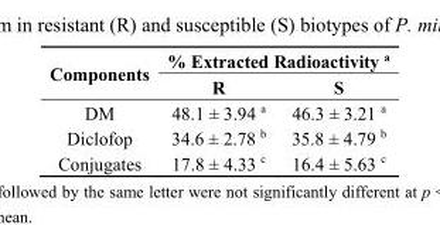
<table><thead><tr><td rowspan="2">Components</td><td colspan="2">% Extracted Radioactivity <sup>a</sup></td></tr><tr><td>R</td><td>S</td></tr></thead><tbody><tr><td>DM</td><td>48.1 ± 3.94 <sup>a</sup></td><td>46.3 ± 3.21 <sup>a</sup></td></tr><tr><td>Diclofop</td><td>34.6 ± 2.78 <sup>b</sup></td><td>35.8 ± 4.79 <sup>b</sup></td></tr><tr><td>Conjugates</td><td>17.8 ± 4.33 <sup>c</sup></td><td>16.4 ± 5.63 <sup>c</sup></td></tr></tbody></table>